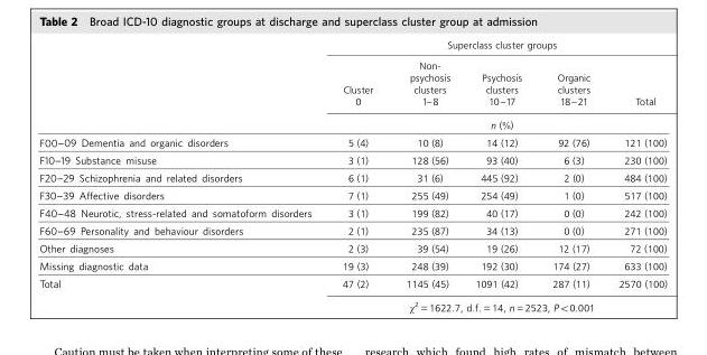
<table><thead><tr><td rowspan="3"></td><td colspan="5">Superclass cluster groups</td></tr><tr><td>Cluster 0</td><td>Non- psychosis clusters 1-8</td><td>Psychosis clusters 10-17</td><td>Organic clusters 18-21</td><td>Total</td></tr><tr><td colspan="5">n (%)</td></tr></thead><tbody><tr><td>F00-09 Dementia and organic disorders</td><td>5 (4)</td><td>10 (8)</td><td>14 (12)</td><td>92 (76)</td><td>121 (100)</td></tr><tr><td>F10-19 Substance misuse</td><td>3 (1)</td><td>128 (56)</td><td>93 (40)</td><td>6 (3)</td><td>230 (100)</td></tr><tr><td>F20-29 Schizophrenia and related disorders</td><td>6 (1)</td><td>31 (6)</td><td>445 (92)</td><td>2 (0)</td><td>484 (100)</td></tr><tr><td>F30-39 Affective disorders</td><td>7 (1)</td><td>255 (49)</td><td>254 (49)</td><td>1 (0)</td><td>517 (100)</td></tr><tr><td>F40-48 Neurotic, stress-related and somatoform disorders</td><td>3 (1)</td><td>199 (82)</td><td>40 (17)</td><td>0 (0)</td><td>242 (100)</td></tr><tr><td>F60-69 Personality and behaviour disorders</td><td>2 (1)</td><td>235 (87)</td><td>34 (13)</td><td>0 (0)</td><td>271 (100)</td></tr><tr><td>Other diagnoses</td><td>2 (3)</td><td>39 (54)</td><td>19 (26)</td><td>12 (17)</td><td>72 (100)</td></tr><tr><td>Missing diagnostic data</td><td>19 (3)</td><td>248 (39)</td><td>192 (30)</td><td>174 (27)</td><td>633 (100)</td></tr><tr><td rowspan="2">Total</td><td>47 (2)</td><td>1145 (45)</td><td>1091 (42)</td><td>287 (11)</td><td>2570 (100)</td></tr><tr><td colspan="5">χ<sup>2</sup> = 1622.7, d.f. = 14, n = 2523, P&lt;0.001</td></tr></tbody></table>